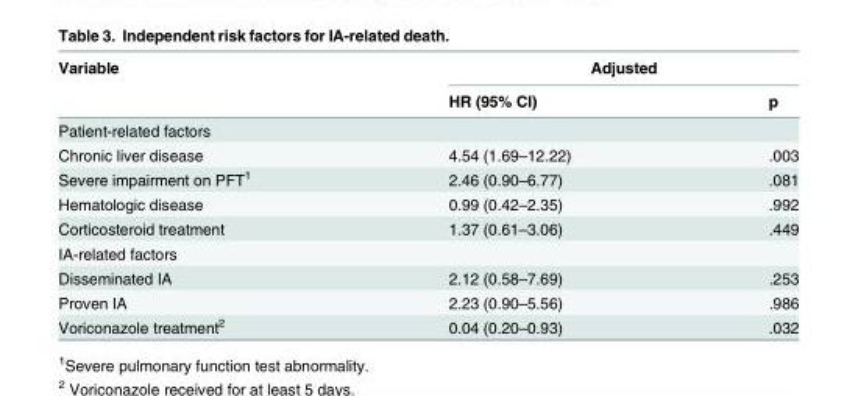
<table><thead><tr><td rowspan="2">Variable</td><td colspan="2">Adjusted</td></tr><tr><td>HR (95% CI)</td><td>p</td></tr></thead><tbody><tr><td colspan="3">Patient-related factors</td></tr><tr><td>Chronic liver disease</td><td>4.54 (1.69–12.22)</td><td>.003</td></tr><tr><td>Severe impairment on PFT<sup>1</sup></td><td>2.46 (0.90–6.77)</td><td>.081</td></tr><tr><td>Hematologic disease</td><td>0.99 (0.42–2.35)</td><td>.992</td></tr><tr><td>Corticosteroid treatment</td><td>1.37 (0.61–3.06)</td><td>.449</td></tr><tr><td colspan="3">IA-related factors</td></tr><tr><td>Disseminated IA</td><td>2.12 (0.58–7.69)</td><td>.253</td></tr><tr><td>Proven IA</td><td>2.23 (0.90–5.56)</td><td>.986</td></tr><tr><td>Voriconazole treatment<sup>2</sup></td><td>0.04 (0.20–0.93)</td><td>.032</td></tr></tbody></table>